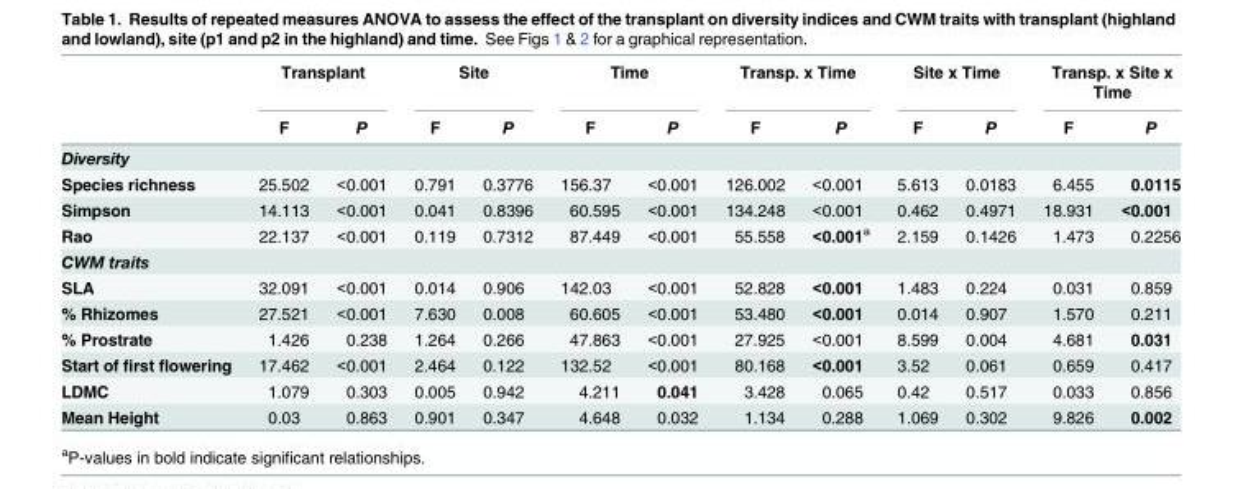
<table><thead><tr><td rowspan="2"></td><td colspan="2">Transplant</td><td colspan="2">Site</td><td colspan="2">Time</td><td colspan="2">Transp. x Time</td><td colspan="2">Site x Time</td><td colspan="2">Transp. x Site x Time</td></tr><tr><td>F</td><td>P</td><td>F</td><td>P</td><td>F</td><td>P</td><td>F</td><td>P</td><td>F</td><td>P</td><td>F</td><td>P</td></tr></thead><tbody><tr><td colspan="13">Diversity</td></tr><tr><td>Species richness</td><td>25.502</td><td>&lt;0.001</td><td>0.791</td><td>0.3776</td><td>156.37</td><td>&lt;0.001</td><td>126.002</td><td>&lt;0.001</td><td>5.613</td><td>0.0183</td><td>6.455</td><td>0.0115</td></tr><tr><td>Simpson</td><td>14.113</td><td>&lt;0.001</td><td>0.041</td><td>0.8396</td><td>60.595</td><td>&lt;0.001</td><td>134.248</td><td>&lt;0.001</td><td>0.462</td><td>0.4971</td><td>18.931</td><td>&lt;0.001</td></tr><tr><td>Rao</td><td>22.137</td><td>&lt;0.001</td><td>0.119</td><td>0.7312</td><td>87.449</td><td>&lt;0.001</td><td>55.558</td><td>&lt;0.001<sup>a</sup></td><td>2.159</td><td>0.1426</td><td>1.473</td><td>0.2256</td></tr><tr><td colspan="13">CWM traits</td></tr><tr><td>SLA</td><td>32.091</td><td>&lt;0.001</td><td>0.014</td><td>0.906</td><td>142.03</td><td>&lt;0.001</td><td>52.828</td><td>&lt;0.001</td><td>1.483</td><td>0.224</td><td>0.031</td><td>0.859</td></tr><tr><td>% Rhizomes</td><td>27.521</td><td>&lt;0.001</td><td>7.630</td><td>0.008</td><td>60.605</td><td>&lt;0.001</td><td>53.480</td><td>&lt;0.001</td><td>0.014</td><td>0.907</td><td>1.570</td><td>0.211</td></tr><tr><td>% Prostrate</td><td>1.426</td><td>0.238</td><td>1.264</td><td>0.266</td><td>47.863</td><td>&lt;0.001</td><td>27.925</td><td>&lt;0.001</td><td>8.599</td><td>0.004</td><td>4.681</td><td>0.031</td></tr><tr><td>Start of first flowering</td><td>17.462</td><td>&lt;0.001</td><td>2.464</td><td>0.122</td><td>132.52</td><td>&lt;0.001</td><td>80.168</td><td>&lt;0.001</td><td>3.52</td><td>0.061</td><td>0.659</td><td>0.417</td></tr><tr><td>LDMC</td><td>1.079</td><td>0.303</td><td>0.005</td><td>0.942</td><td>4.211</td><td>0.041</td><td>3.428</td><td>0.065</td><td>0.42</td><td>0.517</td><td>0.033</td><td>0.856</td></tr><tr><td>Mean Height</td><td>0.03</td><td>0.863</td><td>0.901</td><td>0.347</td><td>4.648</td><td>0.032</td><td>1.134</td><td>0.288</td><td>1.069</td><td>0.302</td><td>9.826</td><td>0.002</td></tr></tbody></table>